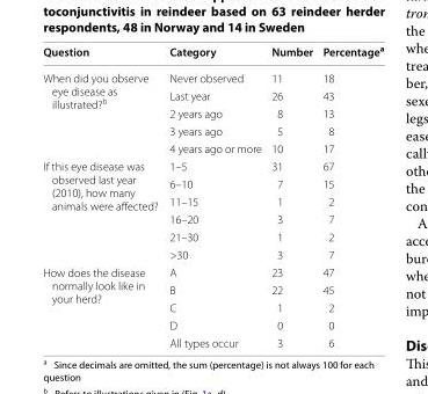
<table><thead><tr><td>Question</td><td>Category</td><td>Number</td><td>Percentage<sup>a</sup></td></tr></thead><tbody><tr><td rowspan="5">When did you observe eye disease as illustrated?<sup>b</sup></td><td>Never observed</td><td>11</td><td>18</td></tr><tr><td>Last year</td><td>26</td><td>43</td></tr><tr><td>2 years ago</td><td>8</td><td>13</td></tr><tr><td>3 years ago</td><td>5</td><td>8</td></tr><tr><td>4 years ago or more</td><td>10</td><td>17</td></tr><tr><td rowspan="6">If this eye disease was observed last year (2010), how many animals were affected?</td><td>1–5</td><td>31</td><td>67</td></tr><tr><td>6–10</td><td>7</td><td>15</td></tr><tr><td>11–15</td><td>1</td><td>2</td></tr><tr><td>16–20</td><td>3</td><td>7</td></tr><tr><td>21–30</td><td>1</td><td>2</td></tr><tr><td>&gt;30</td><td>3</td><td>7</td></tr><tr><td rowspan="5">How does the disease normally look like in your herd?</td><td>A</td><td>23</td><td>47</td></tr><tr><td>B</td><td>22</td><td>45</td></tr><tr><td>C</td><td>1</td><td>2</td></tr><tr><td>D</td><td>0</td><td>0</td></tr><tr><td>All types occur</td><td>3</td><td>6</td></tr></tbody></table>